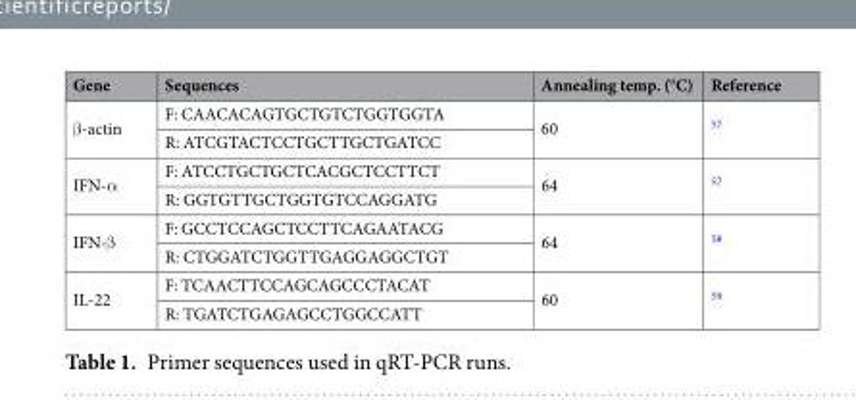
<table><thead><tr><td>Gene</td><td>Sequences</td><td>Annealing temp. (°C)</td><td>Reference</td></tr></thead><tbody><tr><td rowspan="2">β-actin</td><td>F: CAACACAGTGCTGTCTGGTGGTA</td><td rowspan="2">60</td><td rowspan="2"><sup>57</sup></td></tr><tr><td>R: ATCGTACTCCTGCTTGCTGATCC</td></tr><tr><td rowspan="2">IFN-α</td><td>F: ATCCTGCTGCTCACGCTCCTTCT</td><td rowspan="2">64</td><td rowspan="2"><sup>57</sup></td></tr><tr><td>R: GGTGTTGCTGGTGTCCAGGATG</td></tr><tr><td rowspan="2">IFN-β</td><td>F: GCCTCCAGCTCCTTCAGAATACG</td><td rowspan="2">64</td><td rowspan="2"><sup>58</sup></td></tr><tr><td>R: CTGGATCTGGTTGAGGAGGCTGT</td></tr><tr><td rowspan="2">IL-22</td><td>F: TCAACTTCCAGCAGCCCTACAT</td><td rowspan="2">60</td><td rowspan="2"><sup>59</sup></td></tr><tr><td>R: TGATCTGAGAGCCTGGCCATT</td></tr></tbody></table>